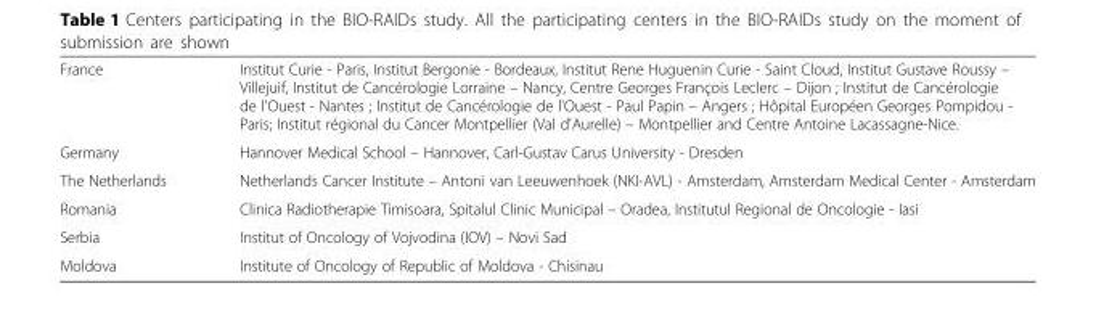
<table><tbody><tr><td>France</td><td>Institut Curie - Paris, Institut Bergonie - Bordeaux, Institut Rene Huguenin Curie - Saint Cloud, Institut Gustave Roussy – Villejuif, Institut de Cancérologie Lorraine – Nancy, Centre Georges François Leclerc – Dijon ; Institut de Cancérologie de l&#x27;Ouest - Nantes ; Institut de Cancérologie de l&#x27;Ouest - Paul Papin – Angers ; Hôpital Européen Georges Pompidou - Paris; Institut régional du Cancer Montpellier (Val d&#x27;Aurelle) – Montpellier and Centre Antoine Lacassagne-Nice.</td></tr><tr><td>Germany</td><td>Hannover Medical School – Hannover, Carl-Gustav Carus University - Dresden</td></tr><tr><td>The Netherlands</td><td>Netherlands Cancer Institute – Antoni van Leeuwenhoek (NKI-AVL) - Amsterdam, Amsterdam Medical Center - Amsterdam</td></tr><tr><td>Romania</td><td>Clinica Radiotherapie Timisoara, Spitalul Clinic Municipal – Oradea, Institutul Regional de Oncologie - Iasi</td></tr><tr><td>Serbia</td><td>Institut of Oncology of Vojvodina (IOV) – Novi Sad</td></tr><tr><td>Moldova</td><td>Institute of Oncology of Republic of Moldova - Chisinau</td></tr></tbody></table>